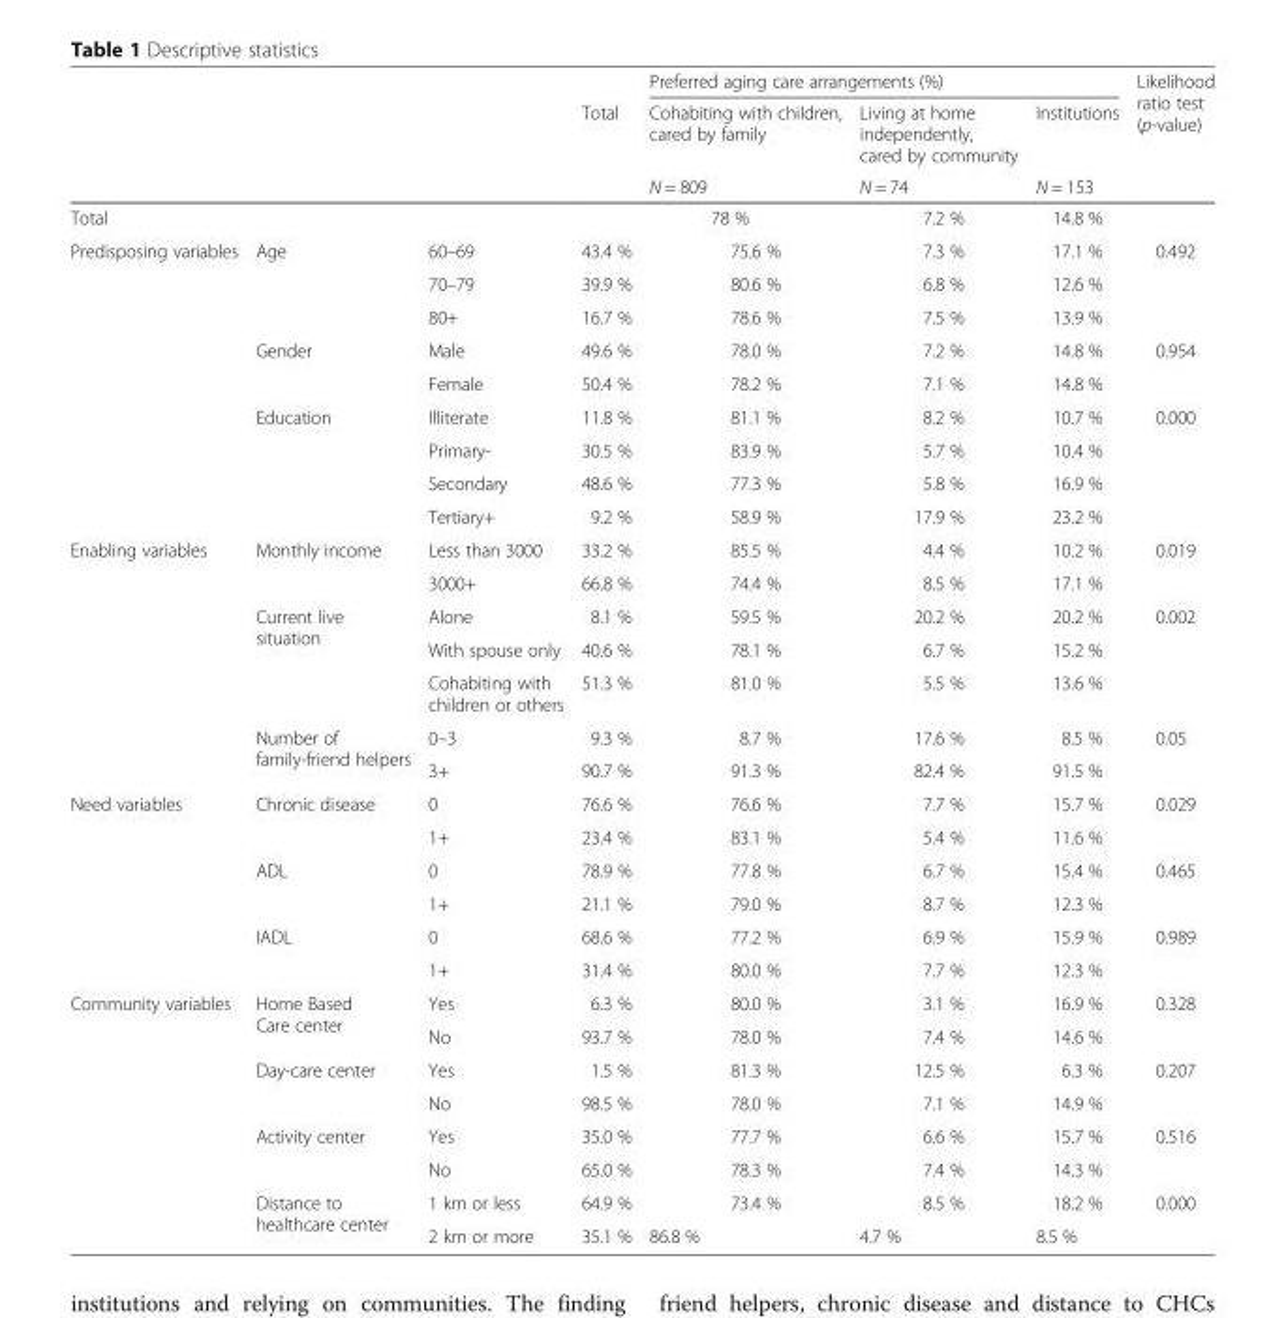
<table><thead><tr><td rowspan="3"></td><td rowspan="3"></td><td rowspan="3"></td><td rowspan="3">Total</td><td colspan="3">Preferred aging care arrangements (%)</td><td rowspan="3">Likelihood ratio test (p-value)</td></tr><tr><td rowspan="2">Cohabiting with children, cared by family N = 809</td><td rowspan="2">Living at home independently, cared by community N = 74</td><td rowspan="2">Institutions N = 153</td></tr><tr></tr></thead><tbody><tr><td>Total</td><td></td><td></td><td></td><td>78 %</td><td>7.2 %</td><td>14.8 %</td><td></td></tr><tr><td rowspan="9">Predisposing variables</td><td rowspan="3">Age</td><td>60–69</td><td>43.4 %</td><td>75.6 %</td><td>7.3 %</td><td>17.1 %</td><td rowspan="3">0.492</td></tr><tr><td>70–79</td><td>39.9 %</td><td>80.6 %</td><td>6.8 %</td><td>12.6 %</td></tr><tr><td>80+</td><td>16.7 %</td><td>78.6 %</td><td>7.5 %</td><td>13.9 %</td></tr><tr><td rowspan="2">Gender</td><td>Male</td><td>49.6 %</td><td>78.0 %</td><td>7.2 %</td><td>14.8 %</td><td rowspan="2">0.954</td></tr><tr><td>Female</td><td>50.4 %</td><td>78.2 %</td><td>7.1 %</td><td>14.8 %</td></tr><tr><td rowspan="4">Education</td><td>Illiterate</td><td>11.8 %</td><td>81.1 %</td><td>8.2 %</td><td>10.7 %</td><td rowspan="4">0.000</td></tr><tr><td>Primary-</td><td>30.5 %</td><td>83.9 %</td><td>5.7 %</td><td>10.4 %</td></tr><tr><td>Secondary</td><td>48.6 %</td><td>77.3 %</td><td>5.8 %</td><td>16.9 %</td></tr><tr><td>Tertiary+</td><td>9.2 %</td><td>58.9 %</td><td>17.9 %</td><td>23.2 %</td></tr><tr><td rowspan="7">Enabling variables</td><td rowspan="2">Monthly income</td><td>Less than 3000</td><td>33.2 %</td><td>85.5 %</td><td>4.4 %</td><td>10.2 %</td><td rowspan="2">0.019</td></tr><tr><td>3000+</td><td>66.8 %</td><td>74.4 %</td><td>8.5 %</td><td>17.1 %</td></tr><tr><td rowspan="3">Current live situation</td><td>Alone</td><td>8.1 %</td><td>59.5 %</td><td>20.2 %</td><td>20.2 %</td><td rowspan="3">0.002</td></tr><tr><td>With spouse only</td><td>40.6 %</td><td>78.1 %</td><td>6.7 %</td><td>15.2 %</td></tr><tr><td>Cohabiting with children or others</td><td>51.3 %</td><td>81.0 %</td><td>5.5 %</td><td>13.6 %</td></tr><tr><td rowspan="2">Number of family-friend helpers</td><td>0–3</td><td>9.3 %</td><td>8.7 %</td><td>17.6 %</td><td>8.5 %</td><td rowspan="2">0.05</td></tr><tr><td>3+</td><td>90.7 %</td><td>91.3 %</td><td>82.4 %</td><td>91.5 %</td></tr><tr><td rowspan="6">Need variables</td><td rowspan="2">Chronic disease</td><td>0</td><td>76.6 %</td><td>76.6 %</td><td>7.7 %</td><td>15.7 %</td><td rowspan="2">0.029</td></tr><tr><td>1+</td><td>23.4 %</td><td>83.1 %</td><td>5.4 %</td><td>11.6 %</td></tr><tr><td rowspan="2">ADL</td><td>0</td><td>78.9 %</td><td>77.8 %</td><td>6.7 %</td><td>15.4 %</td><td rowspan="2">0.465</td></tr><tr><td>1+</td><td>21.1 %</td><td>79.0 %</td><td>8.7 %</td><td>12.3 %</td></tr><tr><td rowspan="2">IADL</td><td>0</td><td>68.6 %</td><td>77.2 %</td><td>6.9 %</td><td>15.9 %</td><td rowspan="2">0.989</td></tr><tr><td>1+</td><td>31.4 %</td><td>80.0 %</td><td>7.7 %</td><td>12.3 %</td></tr><tr><td rowspan="8">Community variables</td><td rowspan="2">Home Based Care center</td><td>Yes</td><td>6.3 %</td><td>80.0 %</td><td>3.1 %</td><td>16.9 %</td><td rowspan="2">0.328</td></tr><tr><td>No</td><td>93.7 %</td><td>78.0 %</td><td>7.4 %</td><td>14.6 %</td></tr><tr><td rowspan="2">Day-care center</td><td>Yes</td><td>1.5 %</td><td>81.3 %</td><td>12.5 %</td><td>6.3 %</td><td rowspan="2">0.207</td></tr><tr><td>No</td><td>98.5 %</td><td>78.0 %</td><td>7.1 %</td><td>14.9 %</td></tr><tr><td rowspan="2">Activity center</td><td>Yes</td><td>35.0 %</td><td>77.7 %</td><td>6.6 %</td><td>15.7 %</td><td rowspan="2">0.516</td></tr><tr><td>No</td><td>65.0 %</td><td>78.3 %</td><td>7.4 %</td><td>14.3 %</td></tr><tr><td rowspan="2">Distance to healthcare center</td><td>1 km or less</td><td>64.9 %</td><td>73.4 %</td><td>8.5 %</td><td>18.2 %</td><td rowspan="2">0.000</td></tr><tr><td>2 km or more</td><td>35.1 %</td><td>86.8 %</td><td>4.7 %</td><td>8.5 %</td></tr></tbody></table>